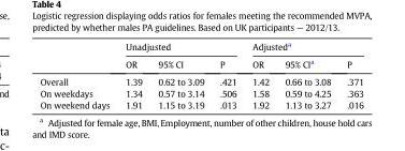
<table><thead><tr><td rowspan="2"></td><td colspan="3">Unadjusted</td><td colspan="3">Adjusted<sup>a</sup></td></tr><tr><td>OR</td><td>95% CI</td><td>P</td><td>OR</td><td>95% CI<sup>a</sup></td><td>P</td></tr></thead><tbody><tr><td>Overall</td><td>1.39</td><td>0.62 to 3.09</td><td>.421</td><td>1.42</td><td>0.66 to 3.08</td><td>.371</td></tr><tr><td>On weekdays</td><td>1.34</td><td>0.57 to 3.14</td><td>.506</td><td>1.58</td><td>0.59 to 4.25</td><td>.363</td></tr><tr><td>On weekend days</td><td>1.91</td><td>1.15 to 3.19</td><td>.013</td><td>1.92</td><td>1.13 to 3.27</td><td>.016</td></tr></tbody></table>